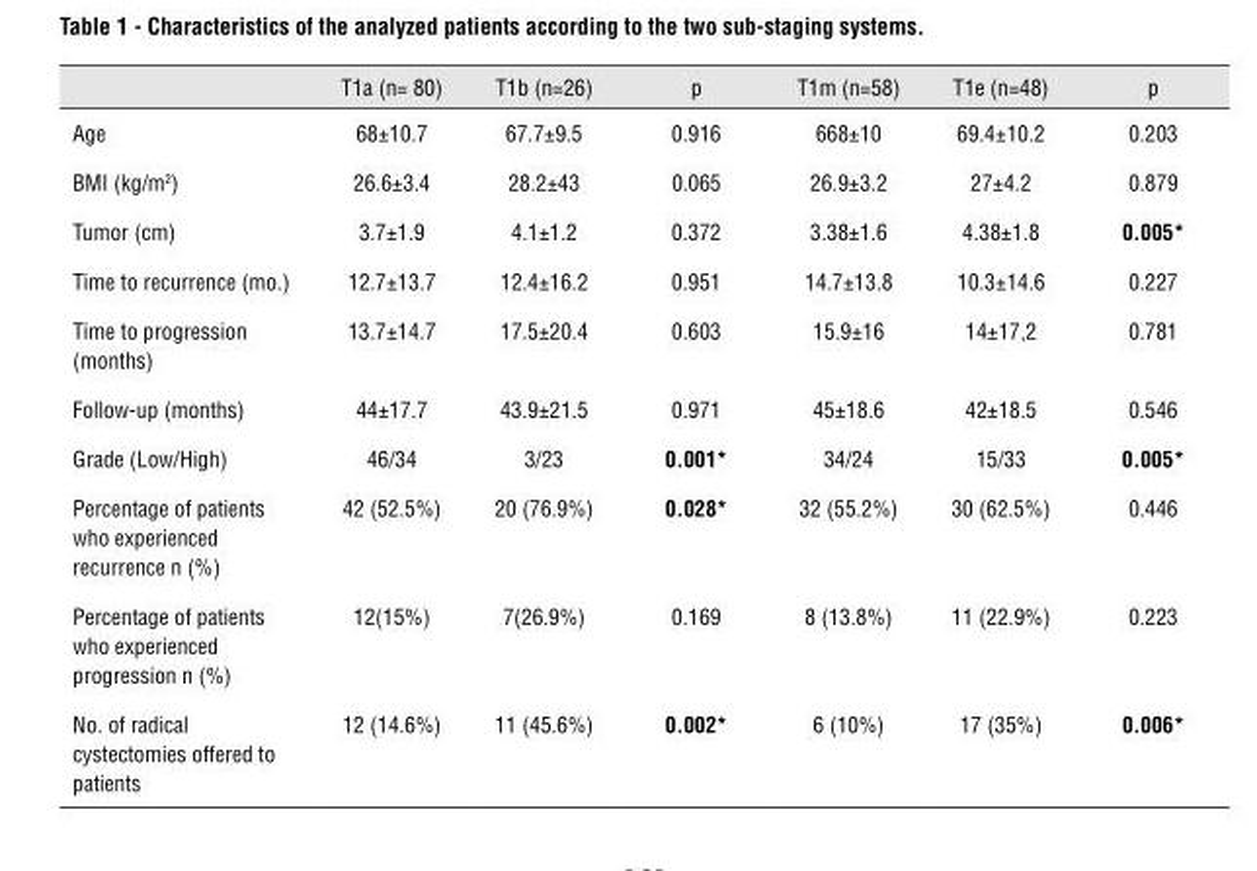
<table><thead><tr><td></td><td>T1a (n= 80)</td><td>T1b (n=26)</td><td>p</td><td>T1m (n=58)</td><td>T1e (n=48)</td><td>p</td></tr></thead><tbody><tr><td>Age</td><td>68±10.7</td><td>67.7±9.5</td><td>0.916</td><td>668±10</td><td>69.4±10.2</td><td>0.203</td></tr><tr><td>BMI (kg/m<sup>2</sup>)</td><td>26.6±3.4</td><td>28.2±43</td><td>0.065</td><td>26.9±3.2</td><td>27±4.2</td><td>0.879</td></tr><tr><td>Tumor (cm)</td><td>3.7±1.9</td><td>4.1±1.2</td><td>0.372</td><td>3.38±1.6</td><td>4.38±1.8</td><td>0.005*</td></tr><tr><td>Time to recurrence (mo.)</td><td>12.7±13.7</td><td>12.4±16.2</td><td>0.951</td><td>14.7±13.8</td><td>10.3±14.6</td><td>0.227</td></tr><tr><td>Time to progression (months)</td><td>13.7±14.7</td><td>17.5±20.4</td><td>0.603</td><td>15.9±16</td><td>14±17,2</td><td>0.781</td></tr><tr><td>Follow-up (months)</td><td>44±17.7</td><td>43.9±21.5</td><td>0.971</td><td>45±18.6</td><td>42±18.5</td><td>0.546</td></tr><tr><td>Grade (Low/High)</td><td>46/34</td><td>3/23</td><td>0.001*</td><td>34/24</td><td>15/33</td><td>0.005*</td></tr><tr><td>Percentage of patients who experienced recurrence n (%)</td><td>42 (52.5%)</td><td>20 (76.9%)</td><td>0.028*</td><td>32 (55.2%)</td><td>30 (62.5%)</td><td>0.446</td></tr><tr><td>Percentage of patients who experienced progression n (%)</td><td>12(15%)</td><td>7(26.9%)</td><td>0.169</td><td>8 (13.8%)</td><td>11 (22.9%)</td><td>0.223</td></tr><tr><td>No. of radical cystectomies offered to patients</td><td>12 (14.6%)</td><td>11 (45.6%)</td><td>0.002*</td><td>6 (10%)</td><td>17 (35%)</td><td>0.006*</td></tr></tbody></table>